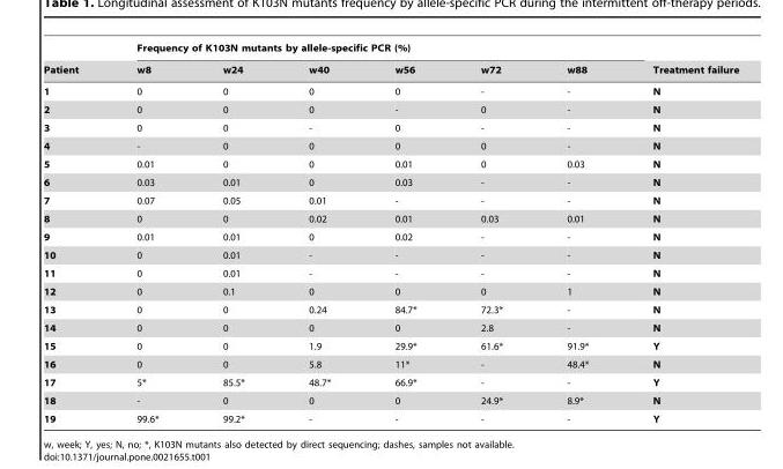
<table><thead><tr><td rowspan="2">Patient</td><td colspan="6">Frequency of K103N mutants by allele-specific PCR (%)</td><td rowspan="2">Treatment failure</td></tr><tr><td>w8</td><td>w24</td><td>w40</td><td>w56</td><td>w72</td><td>w88</td></tr></thead><tbody><tr><td>1</td><td>0</td><td>0</td><td>0</td><td>0</td><td>-</td><td>-</td><td>N</td></tr><tr><td>2</td><td>0</td><td>0</td><td>0</td><td>-</td><td>0</td><td>-</td><td>N</td></tr><tr><td>3</td><td>0</td><td>0</td><td>-</td><td>0</td><td>-</td><td>-</td><td>N</td></tr><tr><td>4</td><td>-</td><td>0</td><td>0</td><td>0</td><td>0</td><td>-</td><td>N</td></tr><tr><td>5</td><td>0.01</td><td>0</td><td>0</td><td>0.01</td><td>0</td><td>0.03</td><td>N</td></tr><tr><td>6</td><td>0.03</td><td>0.01</td><td>0</td><td>0.03</td><td>-</td><td>-</td><td>N</td></tr><tr><td>7</td><td>0.07</td><td>0.05</td><td>0.01</td><td>-</td><td>-</td><td>-</td><td>N</td></tr><tr><td>8</td><td>0</td><td>0</td><td>0.02</td><td>0.01</td><td>0.03</td><td>0.01</td><td>N</td></tr><tr><td>9</td><td>0.01</td><td>0.01</td><td>0</td><td>0.02</td><td>-</td><td>-</td><td>N</td></tr><tr><td>10</td><td>0</td><td>0.01</td><td>-</td><td>-</td><td>-</td><td>-</td><td>N</td></tr><tr><td>11</td><td>0</td><td>0.01</td><td>-</td><td>-</td><td>-</td><td>-</td><td>N</td></tr><tr><td>12</td><td>0</td><td>0.1</td><td>0</td><td>0</td><td>0</td><td>1</td><td>N</td></tr><tr><td>13</td><td>0</td><td>0</td><td>0.24</td><td>84.7*</td><td>72.3*</td><td>-</td><td>N</td></tr><tr><td>14</td><td>0</td><td>0</td><td>0</td><td>0</td><td>2.8</td><td>-</td><td>N</td></tr><tr><td>15</td><td>0</td><td>0</td><td>1.9</td><td>29.9*</td><td>61.6*</td><td>91.9*</td><td>Y</td></tr><tr><td>16</td><td>0</td><td>0</td><td>5.8</td><td>11*</td><td>-</td><td>48.4*</td><td>N</td></tr><tr><td>17</td><td>5*</td><td>85.5*</td><td>48.7*</td><td>66.9*</td><td>-</td><td>-</td><td>Y</td></tr><tr><td>18</td><td>-</td><td>0</td><td>0</td><td>0</td><td>24.9*</td><td>8.9*</td><td>N</td></tr><tr><td>19</td><td>99.6*</td><td>99.2*</td><td>-</td><td>-</td><td>-</td><td>-</td><td>Y</td></tr></tbody></table>